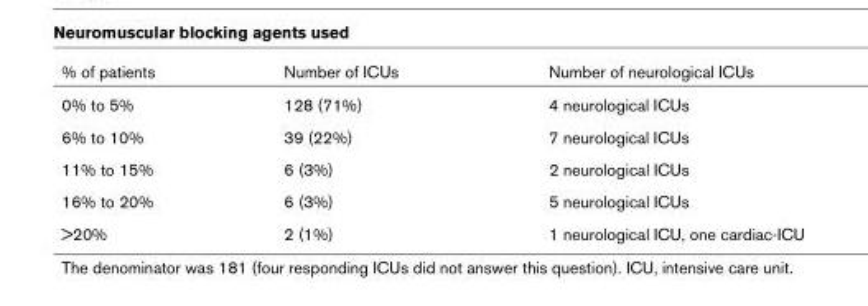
<table><thead><tr><td>% of patients</td><td>Number of ICUs</td><td>Number of neurological ICUs</td></tr></thead><tbody><tr><td>0% to 5%</td><td>128 (71%)</td><td>4 neurological ICUs</td></tr><tr><td>6% to 10%</td><td>39 (22%)</td><td>7 neurological ICUs</td></tr><tr><td>11% to 15%</td><td>6 (3%)</td><td>2 neurological ICUs</td></tr><tr><td>16% to 20%</td><td>6 (3%)</td><td>5 neurological ICUs</td></tr><tr><td>&gt;20%</td><td>2 (1%)</td><td>1 neurological ICU, one cardiac-ICU</td></tr></tbody></table>